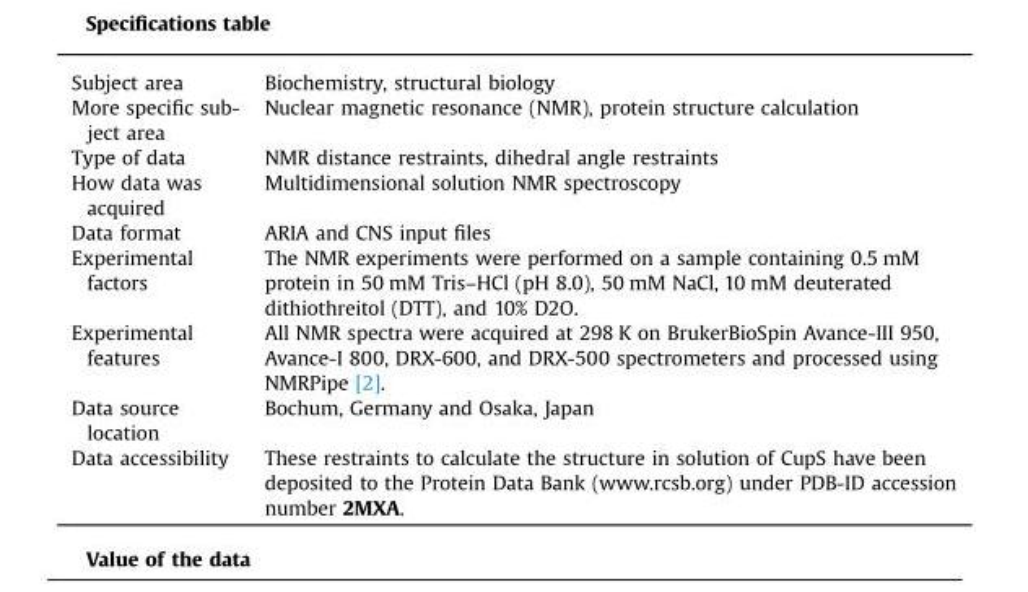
<table><tbody><tr><td>Subject area</td><td>Biochemistry, structural biology</td></tr><tr><td>More specific sub- ject area</td><td>Nuclear magnetic resonance (NMR), protein structure calculation</td></tr><tr><td>Type of data</td><td>NMR distance restraints, dihedral angle restraints</td></tr><tr><td>How data was acquired</td><td>Multidimensional solution NMR spectroscopy</td></tr><tr><td>Data format</td><td>ARIA and CNS input files</td></tr><tr><td>Experimental factors</td><td>The NMR experiments were performed on a sample containing 0.5 mM protein in 50 mM Tris–HCl (pH 8.0), 50 mM NaCl, 10 mM deuterated dithiothreitol (DTT), and 10% D2O.</td></tr><tr><td>Experimental features</td><td>All NMR spectra were acquired at 298 K on BrukerBioSpin Avance-III 950, Avance-I 800, DRX-600, and DRX-500 spectrometers and processed using NMRPipe [2].</td></tr><tr><td>Data source location</td><td>Bochum, Germany and Osaka, Japan</td></tr><tr><td>Data accessibility</td><td>These restraints to calculate the structure in solution of CupS have been deposited to the Protein Data Bank (www.rcsb.org) under PDB-ID accession number 2MXA.</td></tr></tbody></table>